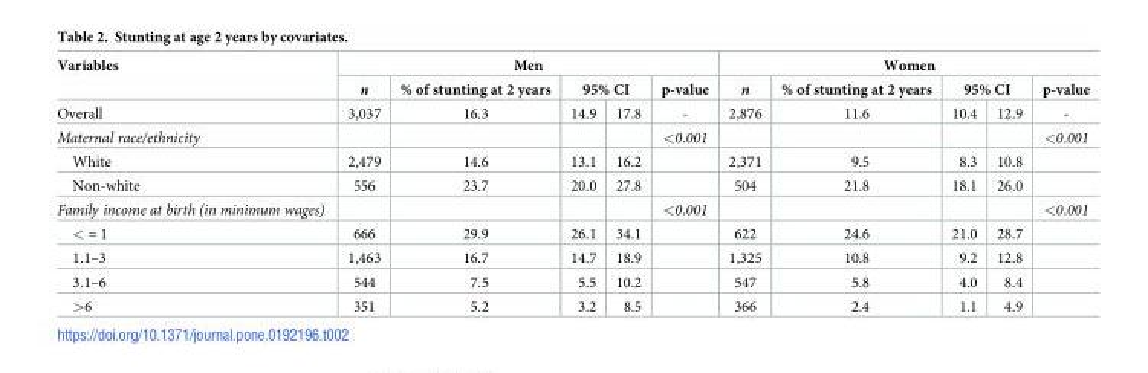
<table><thead><tr><td rowspan="3">Variables Overall</td><td colspan="5">Men</td><td colspan="5">Women</td></tr><tr><td rowspan="2">n 3,037</td><td rowspan="2">% of stunting at 2 years 16.3</td><td colspan="2">95% CI</td><td rowspan="2">p-value -</td><td rowspan="2">n 2,876</td><td rowspan="2">% of stunting at 2 years 11.6</td><td colspan="2">95% CI</td><td rowspan="2">p-value -</td></tr><tr><td>14.9</td><td>17.8</td><td>10.4</td><td>12.9</td></tr></thead><tbody><tr><td>Maternal race/ethnicity</td><td></td><td></td><td></td><td></td><td>&lt;0.001</td><td></td><td></td><td></td><td></td><td>&lt;0.001</td></tr><tr><td>White</td><td>2,479</td><td>14.6</td><td>13.1</td><td>16.2</td><td></td><td>2,371</td><td>9.5</td><td>8.3</td><td>10.8</td><td></td></tr><tr><td>Non-white</td><td>556</td><td>23.7</td><td>20.0</td><td>27.8</td><td></td><td>504</td><td>21.8</td><td>18.1</td><td>26.0</td><td></td></tr><tr><td>Family income at birth (in minimum wages)</td><td></td><td></td><td></td><td></td><td>&lt;0.001</td><td></td><td></td><td></td><td></td><td>&lt;0.001</td></tr><tr><td>&lt; = 1</td><td>666</td><td>29.9</td><td>26.1</td><td>34.1</td><td></td><td>622</td><td>24.6</td><td>21.0</td><td>28.7</td><td></td></tr><tr><td>1.1–3</td><td>1,463</td><td>16.7</td><td>14.7</td><td>18.9</td><td></td><td>1,325</td><td>10.8</td><td>9.2</td><td>12.8</td><td></td></tr><tr><td>3.1–6</td><td>544</td><td>7.5</td><td>5.5</td><td>10.2</td><td></td><td>547</td><td>5.8</td><td>4.0</td><td>8.4</td><td></td></tr><tr><td>&gt;6</td><td>351</td><td>5.2</td><td>3.2</td><td>8.5</td><td></td><td>366</td><td>2.4</td><td>1.1</td><td>4.9</td><td></td></tr></tbody></table>